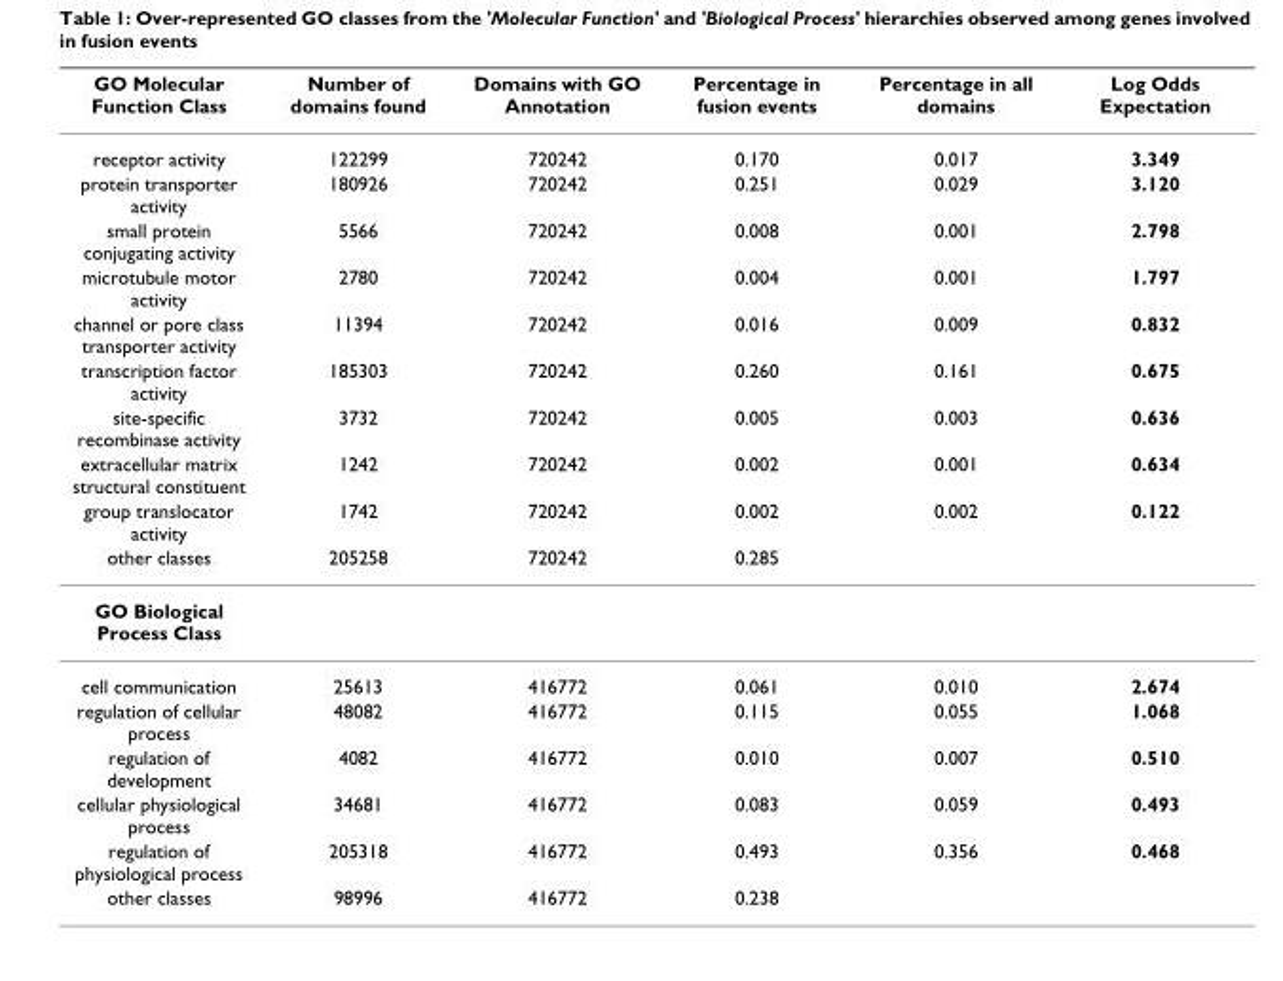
<table><thead><tr><td>GO Molecular Function Class</td><td>Number of domains found</td><td>Domains with GO Annotation</td><td>Percentage in fusion events</td><td>Percentage in all domains</td><td>Log Odds Expectation</td></tr></thead><tbody><tr><td>receptor activity</td><td>122299</td><td>720242</td><td>0.170</td><td>0.017</td><td>3.349</td></tr><tr><td>protein transporter activity</td><td>180926</td><td>720242</td><td>0.251</td><td>0.029</td><td>3.120</td></tr><tr><td>small protein conjugating activity</td><td>5566</td><td>720242</td><td>0.008</td><td>0.001</td><td>2.798</td></tr><tr><td>microtubule motor activity</td><td>2780</td><td>720242</td><td>0.004</td><td>0.001</td><td>1.797</td></tr><tr><td>channel or pore class transporter activity</td><td>11394</td><td>720242</td><td>0.016</td><td>0.009</td><td>0.832</td></tr><tr><td>transcription factor activity</td><td>185303</td><td>720242</td><td>0.260</td><td>0.161</td><td>0.675</td></tr><tr><td>site-specific recombinase activity</td><td>3732</td><td>720242</td><td>0.005</td><td>0.003</td><td>0.636</td></tr><tr><td>extracellular matrix structural constituent</td><td>1242</td><td>720242</td><td>0.002</td><td>0.001</td><td>0.634</td></tr><tr><td>group translocator activity</td><td>1742</td><td>720242</td><td>0.002</td><td>0.002</td><td>0.122</td></tr><tr><td>other classes</td><td>205258</td><td>720242</td><td>0.285</td><td></td><td></td></tr><tr><td colspan="6">GO Biological Process Class</td></tr><tr><td>cell communication</td><td>25613</td><td>416772</td><td>0.061</td><td>0.010</td><td>2.674</td></tr><tr><td>regulation of cellular process</td><td>48082</td><td>416772</td><td>0.115</td><td>0.055</td><td>1.068</td></tr><tr><td>regulation of development</td><td>4082</td><td>416772</td><td>0.010</td><td>0.007</td><td>0.510</td></tr><tr><td>cellular physiological process</td><td>34681</td><td>416772</td><td>0.083</td><td>0.059</td><td>0.493</td></tr><tr><td>regulation of physiological process</td><td>205318</td><td>416772</td><td>0.493</td><td>0.356</td><td>0.468</td></tr><tr><td>other classes</td><td>98996</td><td>416772</td><td>0.238</td><td></td><td></td></tr></tbody></table>